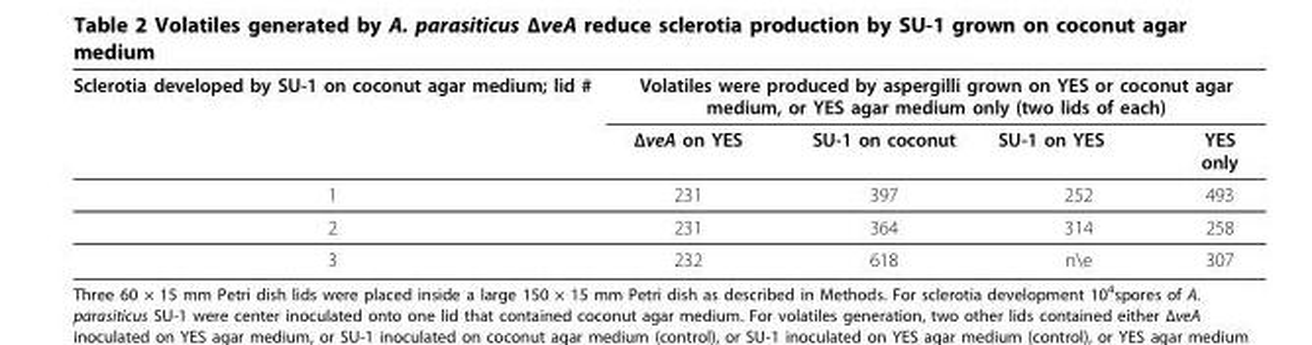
<table><thead><tr><td rowspan="2">Sclerotia developed by SU-1 on coconut agar medium; lid #</td><td colspan="4">Volatiles were produced by aspergilli grown on YES or coconut agar medium, or YES agar medium only (two lids of each)</td></tr><tr><td>ΔveA on YES</td><td>SU-1 on coconut</td><td>SU-1 on YES</td><td>YES only</td></tr></thead><tbody><tr><td>1</td><td>231</td><td>397</td><td>252</td><td>493</td></tr><tr><td>2</td><td>231</td><td>364</td><td>314</td><td>258</td></tr><tr><td>3</td><td>232</td><td>618</td><td>n\e</td><td>307</td></tr></tbody></table>